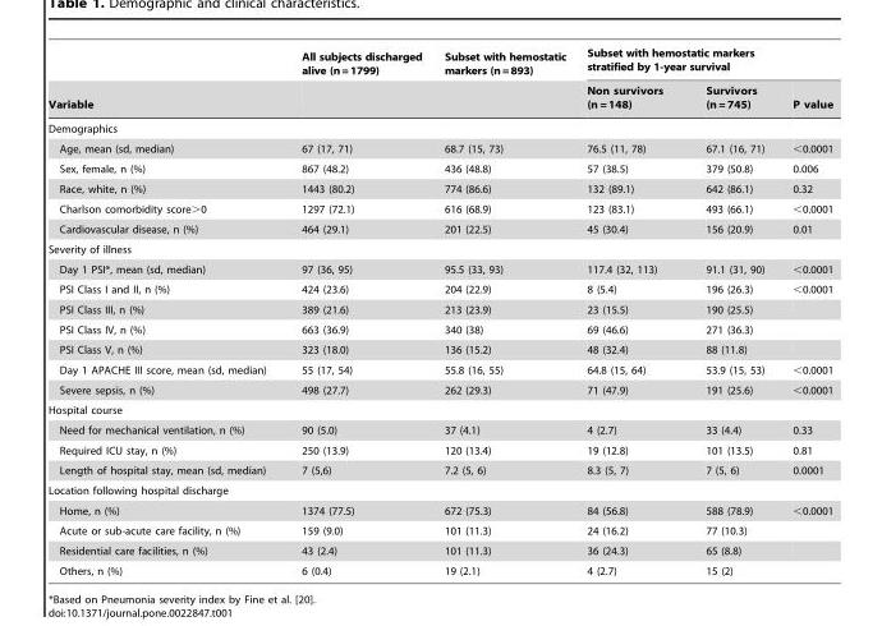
<table><thead><tr><td rowspan="2">Variable</td><td rowspan="2">All subjects discharged alive (n=1799)</td><td rowspan="2">Subset with hemostatic markers (n=893)</td><td colspan="3">Subset with hemostatic markers stratified by 1-year survival</td></tr><tr><td>Non survivors (n = 148)</td><td>Survivors (n = 745)</td><td>P value</td></tr></thead><tbody><tr><td colspan="6">Demographics</td></tr><tr><td>Age, mean (sd, median)</td><td>67 (17, 71)</td><td>68.7 (15, 73)</td><td>76.5 (11, 78)</td><td>67.1 (16, 71)</td><td>&lt;0.0001</td></tr><tr><td>Sex, female, n (%)</td><td>867 (48.2)</td><td>436 (48.8)</td><td>57 (38.5)</td><td>379 (50.8)</td><td>0.006</td></tr><tr><td>Race, white, n (%)</td><td>1443 (80.2)</td><td>774 (86.6)</td><td>132 (89.1)</td><td>642 (86.1)</td><td>0.32</td></tr><tr><td>Charlson comorbidity score&gt;0</td><td>1297 (72.1)</td><td>616 (68.9)</td><td>123 (83.1)</td><td>493 (66.1)</td><td>&lt;0.0001</td></tr><tr><td>Cardiovascular disease, n (%)</td><td>464 (29.1)</td><td>201 (22.5)</td><td>45 (30.4)</td><td>156 (20.9)</td><td>0.01</td></tr><tr><td colspan="6">Severity of illness</td></tr><tr><td>Day 1 PSI*, mean (sd, median)</td><td>97 (36, 95)</td><td>95.5 (33, 93)</td><td>117.4 (32, 113)</td><td>91.1 (31, 90)</td><td>&lt;0.0001</td></tr><tr><td>PSI Class I and II, n (%)</td><td>424 (23.6)</td><td>204 (22.9)</td><td>8 (5.4)</td><td>196 (26.3)</td><td>&lt;0.0001</td></tr><tr><td>PSI Class III, n (%)</td><td>389 (21.6)</td><td>213 (23.9)</td><td>23 (15.5)</td><td>190 (25.5)</td><td></td></tr><tr><td>PSI Class IV, n (%)</td><td>663 (36.9)</td><td>340 (38)</td><td>69 (46.6)</td><td>271 (36.3)</td><td></td></tr><tr><td>PSI Class V, n (%)</td><td>323 (18.0)</td><td>136 (15.2)</td><td>48 (32.4)</td><td>88 (11.8)</td><td></td></tr><tr><td>Day 1 APACHE III score, mean (sd, median)</td><td>55 (17, 54)</td><td>55.8 (16, 55)</td><td>64.8 (15, 64)</td><td>53.9 (15, 53)</td><td>&lt;0.0001</td></tr><tr><td>Severe sepsis, n (%)</td><td>498 (27.7)</td><td>262 (29.3)</td><td>71 (47.9)</td><td>191 (25.6)</td><td>&lt;0.0001</td></tr><tr><td colspan="6">Hospital course</td></tr><tr><td>Need for mechanical ventilation, n (%)</td><td>90 (5.0)</td><td>37 (4.1)</td><td>4 (2.7)</td><td>33 (4.4)</td><td>0.33</td></tr><tr><td>Required ICU stay, n (%)</td><td>250 (13.9)</td><td>120 (13.4)</td><td>19 (12.8)</td><td>101 (13.5)</td><td>0.81</td></tr><tr><td>Length of hospital stay, mean (sd, median)</td><td>7 (5,6)</td><td>7.2 (5, 6)</td><td>8.3 (5, 7)</td><td>7 (5, 6)</td><td>0.0001</td></tr><tr><td colspan="6">Location following hospital discharge</td></tr><tr><td>Home, n (%)</td><td>1374 (77.5)</td><td>672 (75.3)</td><td>84 (56.8)</td><td>588 (78.9)</td><td>&lt;0.0001</td></tr><tr><td>Acute or sub-acute care facility, n (%)</td><td>159 (9.0)</td><td>101 (11.3)</td><td>24 (16.2)</td><td>77 (10.3)</td><td></td></tr><tr><td>Residential care facilities, n (%)</td><td>43 (2.4)</td><td>101 (11.3)</td><td>36 (24.3)</td><td>65 (8.8)</td><td></td></tr><tr><td>Others, n (%)</td><td>6 (0.4)</td><td>19 (2.1)</td><td>4 (2.7)</td><td>15 (2)</td><td></td></tr></tbody></table>